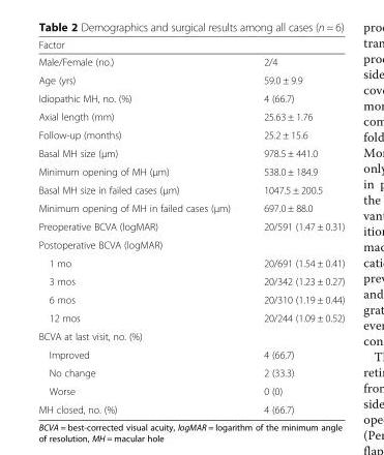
<table><thead><tr><td colspan="2">Factor</td></tr><tr><td>Male/Female (no.)</td><td>2/4</td></tr></thead><tbody><tr><td>Age (yrs)</td><td>59.0 ± 9.9</td></tr><tr><td>Idiopathic MH, no. (%)</td><td>4 (66.7)</td></tr><tr><td>Axial length (mm)</td><td>25.63 ± 1.76</td></tr><tr><td>Follow-up (months)</td><td>25.2 ± 15.6</td></tr><tr><td>Basal MH size (μm)</td><td>978.5 ± 441.0</td></tr><tr><td>Minimum opening of MH (μm)</td><td>538.0 ± 184.9</td></tr><tr><td>Basal MH size in failed cases (μm)</td><td>1047.5 ± 200.5</td></tr><tr><td>Minimum opening of MH in failed cases (μm)</td><td>697.0 ± 88.0</td></tr><tr><td>Preoperative BCVA (logMAR)</td><td>20/591 (1.47 ± 0.31)</td></tr><tr><td colspan="2">Postoperative BCVA (logMAR)</td></tr><tr><td>1 mo</td><td>20/691 (1.54 ± 0.41)</td></tr><tr><td>3 mos</td><td>20/342 (1.23 ± 0.27)</td></tr><tr><td>6 mos</td><td>20/310 (1.19 ± 0.44)</td></tr><tr><td>12 mos</td><td>20/244 (1.09 ± 0.52)</td></tr><tr><td colspan="2">BCVA at last visit, no. (%)</td></tr><tr><td>Improved</td><td>4 (66.7)</td></tr><tr><td>No change</td><td>2 (33.3)</td></tr><tr><td>Worse</td><td>0 (0)</td></tr><tr><td>MH closed, no. (%)</td><td>4 (66.7)</td></tr></tbody></table>